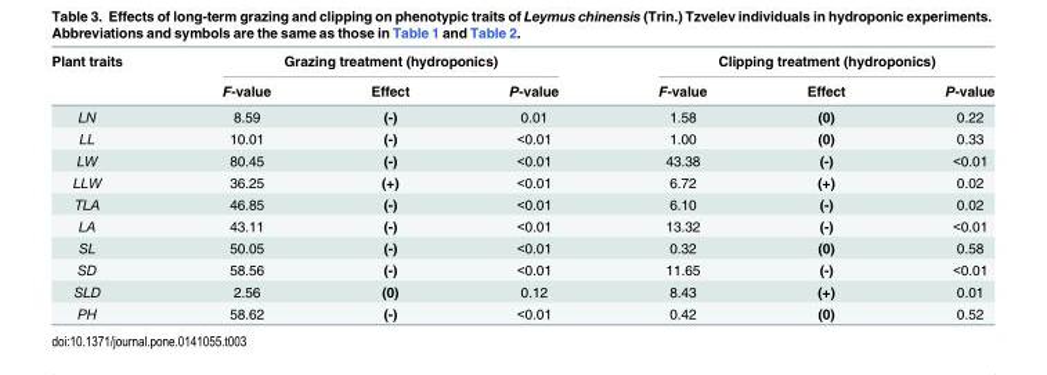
<table><thead><tr><td rowspan="2">Plant traits</td><td colspan="3">Grazing treatment (hydroponics)</td><td colspan="3">Clipping treatment (hydroponics)</td></tr><tr><td>F-value</td><td>Effect</td><td>P-value</td><td>F-value</td><td>Effect</td><td>P-value</td></tr></thead><tbody><tr><td>LN</td><td>8.59</td><td>(-)</td><td>0.01</td><td>1.58</td><td>(0)</td><td>0.22</td></tr><tr><td>LL</td><td>10.01</td><td>(-)</td><td>&lt;0.01</td><td>1.00</td><td>(0)</td><td>0.33</td></tr><tr><td>LW</td><td>80.45</td><td>(-)</td><td>&lt;0.01</td><td>43.38</td><td>(-)</td><td>&lt;0.01</td></tr><tr><td>LLW</td><td>36.25</td><td>(+)</td><td>&lt;0.01</td><td>6.72</td><td>(+)</td><td>0.02</td></tr><tr><td>TLA</td><td>46.85</td><td>(-)</td><td>&lt;0.01</td><td>6.10</td><td>(-)</td><td>0.02</td></tr><tr><td>LA</td><td>43.11</td><td>(-)</td><td>&lt;0.01</td><td>13.32</td><td>(-)</td><td>&lt;0.01</td></tr><tr><td>SL</td><td>50.05</td><td>(-)</td><td>&lt;0.01</td><td>0.32</td><td>(0)</td><td>0.58</td></tr><tr><td>SD</td><td>58.56</td><td>(-)</td><td>&lt;0.01</td><td>11.65</td><td>(-)</td><td>&lt;0.01</td></tr><tr><td>SLD</td><td>2.56</td><td>(0)</td><td>0.12</td><td>8.43</td><td>(+)</td><td>0.01</td></tr><tr><td>PH</td><td>58.62</td><td>(-)</td><td>&lt;0.01</td><td>0.42</td><td>(0)</td><td>0.52</td></tr></tbody></table>